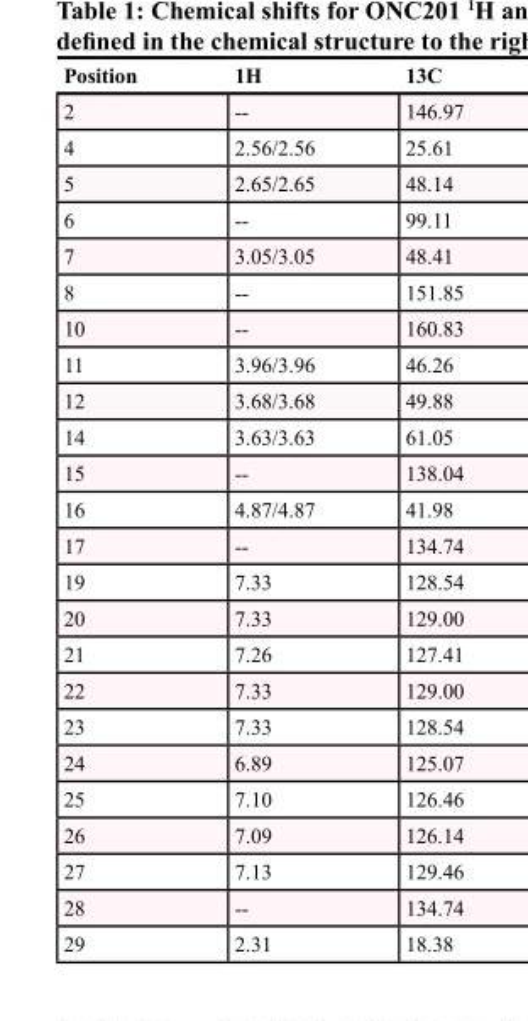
<table><thead><tr><td>Position</td><td>1H</td><td>13C</td></tr></thead><tbody><tr><td>2</td><td>--</td><td>146.97</td></tr><tr><td>4</td><td>2.56/2.56</td><td>25.61</td></tr><tr><td>5</td><td>2.65/2.65</td><td>48.14</td></tr><tr><td>6</td><td>--</td><td>99.11</td></tr><tr><td>7</td><td>3.05/3.05</td><td>48.41</td></tr><tr><td>8</td><td>--</td><td>151.85</td></tr><tr><td>10</td><td>--</td><td>160.83</td></tr><tr><td>11</td><td>3.96/3.96</td><td>46.26</td></tr><tr><td>12</td><td>3.68/3.68</td><td>49.88</td></tr><tr><td>14</td><td>3.63/3.63</td><td>61.05</td></tr><tr><td>15</td><td>--</td><td>138.04</td></tr><tr><td>16</td><td>4.87/4.87</td><td>41.98</td></tr><tr><td>17</td><td>--</td><td>134.74</td></tr><tr><td>19</td><td>7.33</td><td>128.54</td></tr><tr><td>20</td><td>7.33</td><td>129.00</td></tr><tr><td>21</td><td>7.26</td><td>127.41</td></tr><tr><td>22</td><td>7.33</td><td>129.00</td></tr><tr><td>23</td><td>7.33</td><td>128.54</td></tr><tr><td>24</td><td>6.89</td><td>125.07</td></tr><tr><td>25</td><td>7.10</td><td>126.46</td></tr><tr><td>26</td><td>7.09</td><td>126.14</td></tr><tr><td>27</td><td>7.13</td><td>129.46</td></tr><tr><td>28</td><td>--</td><td>134.74</td></tr><tr><td>29</td><td>2.31</td><td>18.38</td></tr></tbody></table>